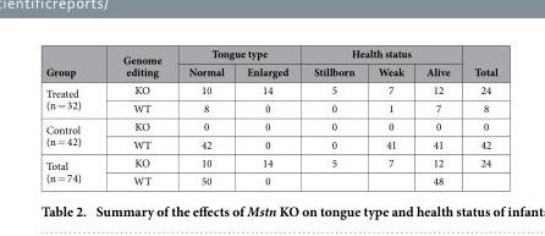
<table><thead><tr><td rowspan="2">Group</td><td rowspan="2">Genome editing</td><td colspan="2">Tongue type</td><td colspan="3">Health status</td><td rowspan="2">Total</td></tr><tr><td>Normal</td><td>Enlarged</td><td>Stillborn</td><td>Weak</td><td>Alive</td></tr></thead><tbody><tr><td rowspan="2">Treated (n = 32)</td><td>KO</td><td>10</td><td>14</td><td>5</td><td>7</td><td>12</td><td>24</td></tr><tr><td>WT</td><td>8</td><td>0</td><td>0</td><td>1</td><td>7</td><td>8</td></tr><tr><td rowspan="2">Control (n = 42)</td><td>KO</td><td>0</td><td>0</td><td>0</td><td>0</td><td>0</td><td>0</td></tr><tr><td>WT</td><td>42</td><td>0</td><td>0</td><td>41</td><td>41</td><td>42</td></tr><tr><td rowspan="2">Total (n = 74)</td><td>KO</td><td>10</td><td>14</td><td>5</td><td>7</td><td>12</td><td>24</td></tr><tr><td>WT</td><td>50</td><td>0</td><td></td><td></td><td>48</td><td></td></tr></tbody></table>